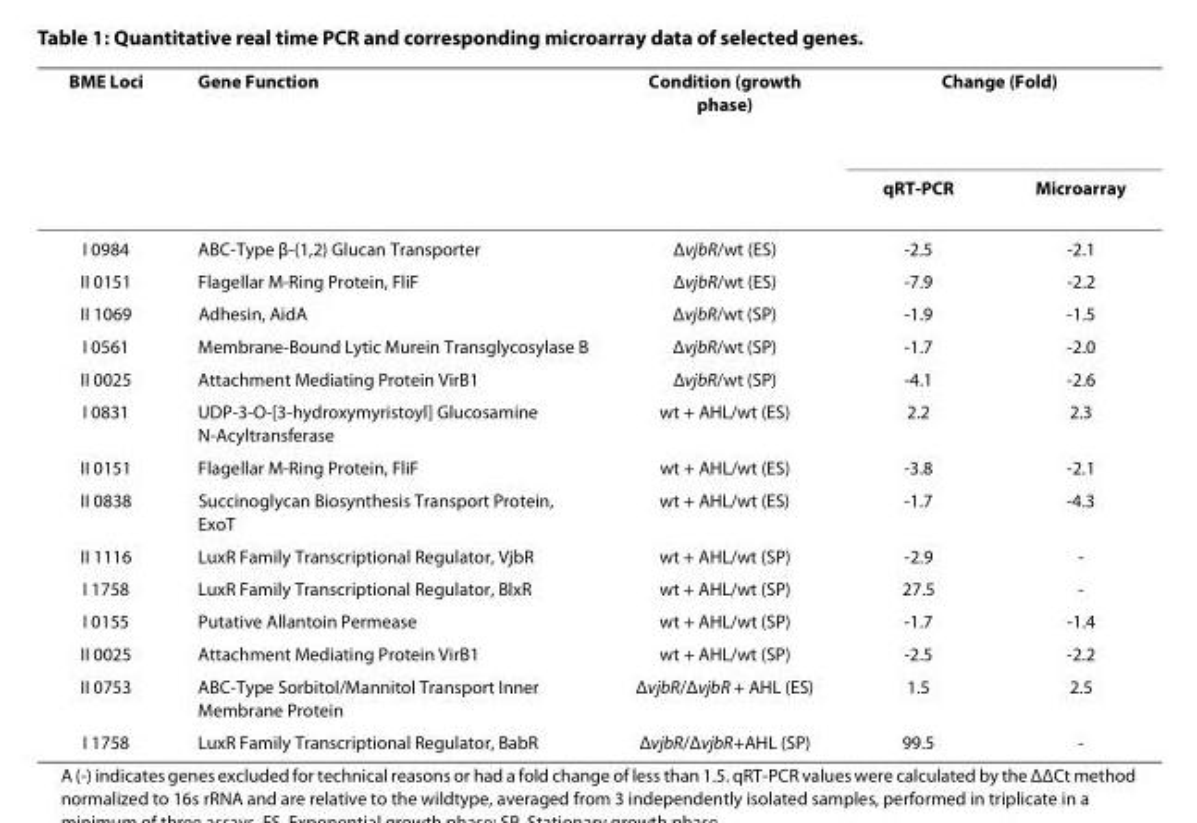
<table><thead><tr><td rowspan="2">BME Loci</td><td rowspan="2">Gene Function</td><td rowspan="2">Condition (growth phase)</td><td colspan="2">Change (Fold)</td></tr><tr><td>qRT-PCR</td><td>Microarray</td></tr></thead><tbody><tr><td>I 0984</td><td>ABC-Type β-(1,2) Glucan Transporter</td><td>ΔvjbR/wt (ES)</td><td>-2.5</td><td>-2.1</td></tr><tr><td>II 0151</td><td>Flagellar M-Ring Protein, FliF</td><td>ΔvjbR/wt (ES)</td><td>-7.9</td><td>-2.2</td></tr><tr><td>II 1069</td><td>Adhesin, AidA</td><td>ΔvjbR/wt (SP)</td><td>-1.9</td><td>-1.5</td></tr><tr><td>I 0561</td><td>Membrane-Bound Lytic Murein Transglycosylase B</td><td>ΔvjbR/wt (SP)</td><td>-1.7</td><td>-2.0</td></tr><tr><td>II 0025</td><td>Attachment Mediating Protein VirB1</td><td>ΔvjbR/wt (SP)</td><td>-4.1</td><td>-2.6</td></tr><tr><td>I 0831</td><td>UDP-3-O-[3-hydroxymyristoyl] Glucosamine N-Acyltransferase</td><td>wt + AHL/wt (ES)</td><td>2.2</td><td>2.3</td></tr><tr><td>II 0151</td><td>Flagellar M-Ring Protein, FliF</td><td>wt + AHL/wt (ES)</td><td>-3.8</td><td>-2.1</td></tr><tr><td>II 0838</td><td>Succinoglycan Biosynthesis Transport Protein, ExoT</td><td>wt + AHL/wt (ES)</td><td>-1.7</td><td>-4.3</td></tr><tr><td>II 1116</td><td>LuxR Family Transcriptional Regulator, VjbR</td><td>wt + AHL/wt (SP)</td><td>-2.9</td><td>-</td></tr><tr><td>I 1758</td><td>LuxR Family Transcriptional Regulator, BlxR</td><td>wt + AHL/wt (SP)</td><td>27.5</td><td>-</td></tr><tr><td>I 0155</td><td>Putative Allantoin Permease</td><td>wt + AHL/wt (SP)</td><td>-1.7</td><td>-1.4</td></tr><tr><td>II 0025</td><td>Attachment Mediating Protein VirB1</td><td>wt + AHL/wt (SP)</td><td>-2.5</td><td>-2.2</td></tr><tr><td>II 0753</td><td>ABC-Type Sorbitol/Mannitol Transport Inner Membrane Protein</td><td>ΔvjbR/ΔvjbR + AHL (ES)</td><td>1.5</td><td>2.5</td></tr><tr><td>I 1758</td><td>LuxR Family Transcriptional Regulator, BabR</td><td>ΔvjbR/ΔvjbR+AHL (SP)</td><td>99.5</td><td>-</td></tr></tbody></table>